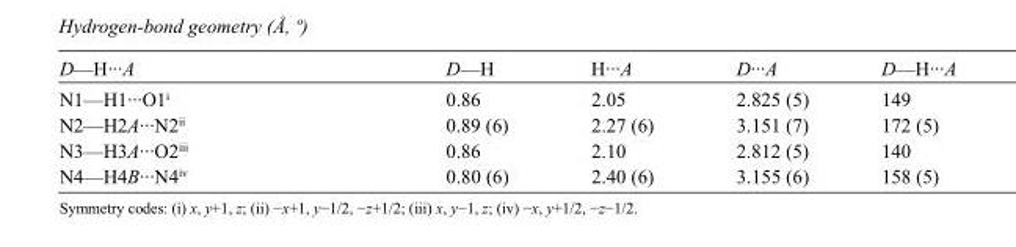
<table><tbody><tr><td>D—H···A</td><td>D—H</td><td>H···A</td><td>D···A</td><td>D—H···A</td></tr><tr><td>N1—H1···O1<sup>i</sup></td><td>0.86</td><td>2.05</td><td>2.825 (5)</td><td>149</td></tr><tr><td>N2—H2A···N2<sup>ii</sup></td><td>0.89 (6)</td><td>2.27 (6)</td><td>3.151 (7)</td><td>172 (5)</td></tr><tr><td>N3—H3A···O2<sup>iii</sup></td><td>0.86</td><td>2.10</td><td>2.812 (5)</td><td>140</td></tr><tr><td>N4—H4B···N4<sup>iv</sup></td><td>0.80 (6)</td><td>2.40 (6)</td><td>3.155 (6)</td><td>158 (5)</td></tr></tbody></table>